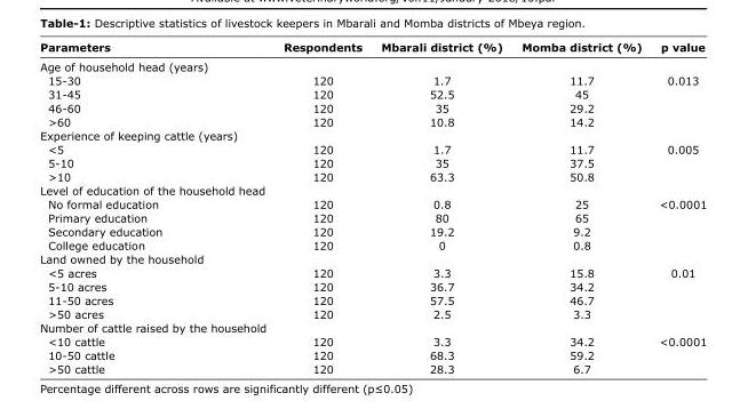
<table><thead><tr><td>Parameters</td><td>Respondents</td><td>Mbarali district (%)</td><td>Momba district (%)</td><td>p value</td></tr></thead><tbody><tr><td colspan="5">Age of household head (years)</td></tr><tr><td>15-30</td><td>120</td><td>1.7</td><td>11.7</td><td>0.013</td></tr><tr><td>31-45</td><td>120</td><td>52.5</td><td>45</td><td></td></tr><tr><td>46-60</td><td>120</td><td>35</td><td>29.2</td><td></td></tr><tr><td>&gt;60</td><td>120</td><td>10.8</td><td>14.2</td><td></td></tr><tr><td colspan="5">Experience of keeping cattle (years)</td></tr><tr><td>&lt;5</td><td>120</td><td>1.7</td><td>11.7</td><td>0.005</td></tr><tr><td>5-10</td><td>120</td><td>35</td><td>37.5</td><td></td></tr><tr><td>&gt;10</td><td>120</td><td>63.3</td><td>50.8</td><td></td></tr><tr><td colspan="5">Level of education of the household head</td></tr><tr><td>No formal education</td><td>120</td><td>0.8</td><td>25</td><td>&lt;0.0001</td></tr><tr><td>Primary education</td><td>120</td><td>80</td><td>65</td><td></td></tr><tr><td>Secondary education</td><td>120</td><td>19.2</td><td>9.2</td><td></td></tr><tr><td>College education</td><td>120</td><td>0</td><td>0.8</td><td></td></tr><tr><td colspan="5">Land owned by the household</td></tr><tr><td>&lt;5 acres</td><td>120</td><td>3.3</td><td>15.8</td><td>0.01</td></tr><tr><td>5-10 acres</td><td>120</td><td>36.7</td><td>34.2</td><td></td></tr><tr><td>11-50 acres</td><td>120</td><td>57.5</td><td>46.7</td><td></td></tr><tr><td>&gt;50 acres</td><td>120</td><td>2.5</td><td>3.3</td><td></td></tr><tr><td colspan="5">Number of cattle raised by the household</td></tr><tr><td>&lt;10 cattle</td><td>120</td><td>3.3</td><td>34.2</td><td>&lt;0.0001</td></tr><tr><td>10-50 cattle</td><td>120</td><td>68.3</td><td>59.2</td><td></td></tr><tr><td>&gt;50 cattle</td><td>120</td><td>28.3</td><td>6.7</td><td></td></tr></tbody></table>